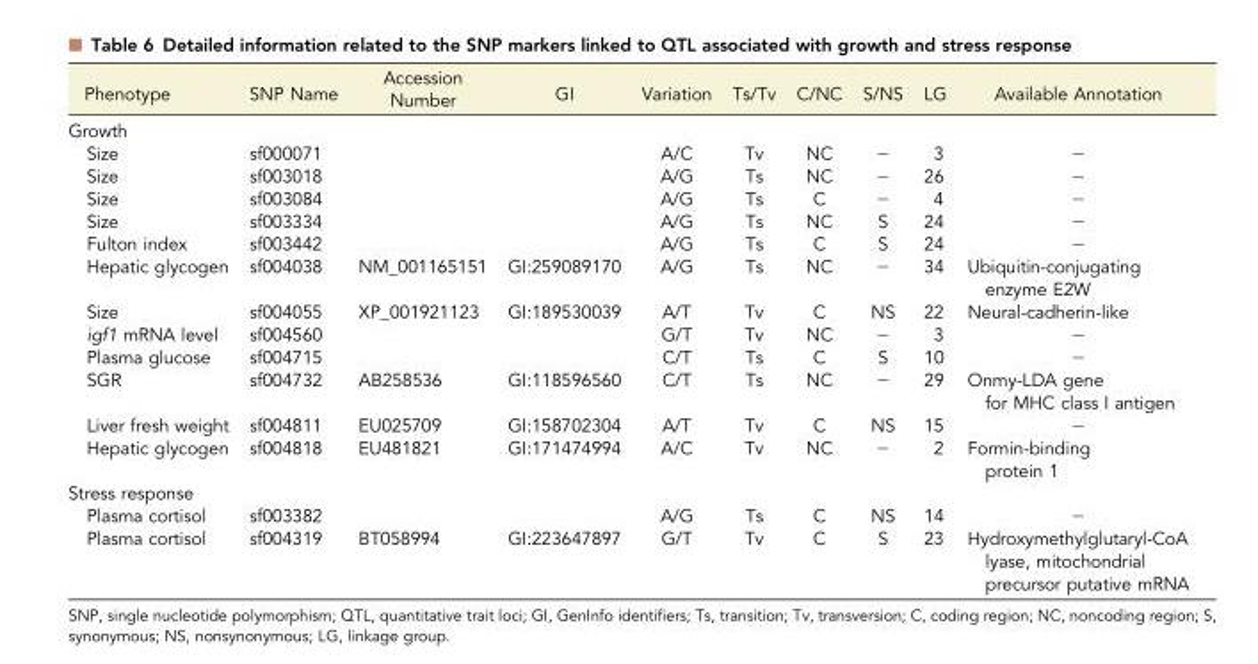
<table><thead><tr><td>Phenotype</td><td>SNP Name</td><td>Accession Number</td><td>GI</td><td>Variation</td><td>Ts/Tv</td><td>C/NC</td><td>S/NS</td><td>LG</td><td>Available Annotation</td></tr></thead><tbody><tr><td colspan="10">Growth</td></tr><tr><td>Size</td><td>sf000071</td><td></td><td></td><td>A/C</td><td>Tv</td><td>NC</td><td>−</td><td>3</td><td>−</td></tr><tr><td>Size</td><td>sf003018</td><td></td><td></td><td>A/G</td><td>Ts</td><td>NC</td><td>−</td><td>26</td><td>−</td></tr><tr><td>Size</td><td>sf003084</td><td></td><td></td><td>A/G</td><td>Ts</td><td>C</td><td>−</td><td>4</td><td>−</td></tr><tr><td>Size</td><td>sf003334</td><td></td><td></td><td>A/G</td><td>Ts</td><td>NC</td><td>S</td><td>24</td><td>−</td></tr><tr><td>Fulton index</td><td>sf003442</td><td></td><td></td><td>A/G</td><td>Ts</td><td>C</td><td>S</td><td>24</td><td>−</td></tr><tr><td>Hepatic glycogen</td><td>sf004038</td><td>NM_001165151</td><td>GI:259089170</td><td>A/G</td><td>Ts</td><td>NC</td><td>−</td><td>34</td><td>Ubiquitin-conjugating enzyme E2W</td></tr><tr><td>Size</td><td>sf004055</td><td>XP_001921123</td><td>GI:189530039</td><td>A/T</td><td>Tv</td><td>C</td><td>NS</td><td>22</td><td>Neural-cadherin-like</td></tr><tr><td>igf1 mRNA level</td><td>sf004560</td><td></td><td></td><td>G/T</td><td>Tv</td><td>NC</td><td>−</td><td>3</td><td>−</td></tr><tr><td>Plasma glucose</td><td>sf004715</td><td></td><td></td><td>C/T</td><td>Ts</td><td>C</td><td>S</td><td>10</td><td>−</td></tr><tr><td>SGR</td><td>sf004732</td><td>AB258536</td><td>GI:118596560</td><td>C/T</td><td>Ts</td><td>NC</td><td>−</td><td>29</td><td>Onmy-LDA gene for MHC class I antigen</td></tr><tr><td>Liver fresh weight</td><td>sf004811</td><td>EU025709</td><td>GI:158702304</td><td>A/T</td><td>Tv</td><td>C</td><td>NS</td><td>15</td><td>−</td></tr><tr><td>Hepatic glycogen</td><td>sf004818</td><td>EU481821</td><td>GI:171474994</td><td>A/C</td><td>Tv</td><td>NC</td><td>−</td><td>2</td><td>Formin-binding protein 1</td></tr><tr><td colspan="10">Stress response</td></tr><tr><td>Plasma cortisol</td><td>sf003382</td><td></td><td></td><td>A/G</td><td>Ts</td><td>C</td><td>NS</td><td>14</td><td>−</td></tr><tr><td>Plasma cortisol</td><td>sf004319</td><td>BT058994</td><td>GI:223647897</td><td>G/T</td><td>Tv</td><td>C</td><td>S</td><td>23</td><td>Hydroxymethylglutaryl-CoA lyase, mitochondrial precursor putative mRNA</td></tr></tbody></table>